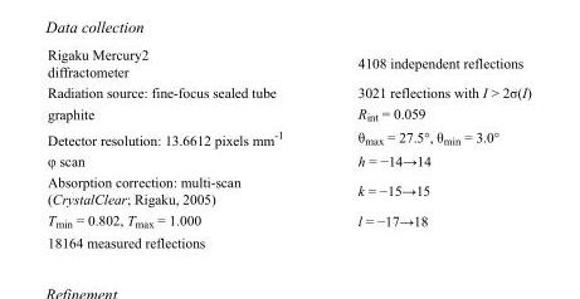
<table><tbody><tr><td>Rigaku Mercury2 diffractometer</td><td>4108 independent reflections</td></tr><tr><td>Radiation source: fine-focus sealed tube</td><td>3021 reflections with I &gt; 2σ(I)</td></tr><tr><td>graphite</td><td>R<sub>int</sub> = 0.059</td></tr><tr><td>Detector resolution: 13.6612 pixels mm<sup>-1</sup></td><td>θ<sub>max</sub> = 27.5°, θ<sub>min</sub> = 3.0°</td></tr><tr><td>φ scan</td><td>h = −14→14</td></tr><tr><td>Absorption correction: multi-scan (CrystalClear; Rigaku, 2005)</td><td>k = −15→15</td></tr><tr><td>T<sub>min</sub> = 0.802, T<sub>max</sub> = 1.000</td><td>l = −17→18</td></tr><tr><td>18164 measured reflections</td><td></td></tr></tbody></table>